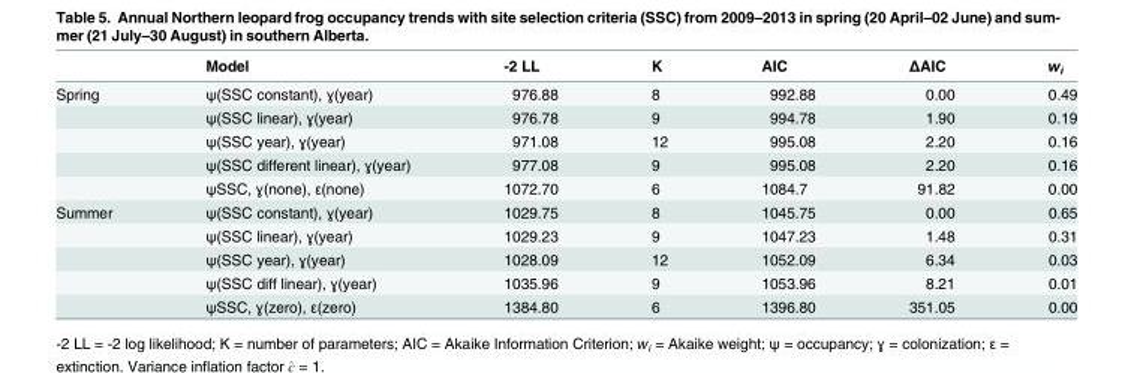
<table><thead><tr><td></td><td>Model</td><td>-2 LL</td><td>K</td><td>AIC</td><td>ΔAIC</td><td>w<sub>i</sub></td></tr></thead><tbody><tr><td rowspan="5">Spring</td><td>ψ(SSC constant), ɣ(year)</td><td>976.88</td><td>8</td><td>992.88</td><td>0.00</td><td>0.49</td></tr><tr><td>ψ(SSC linear), ɣ(year)</td><td>976.78</td><td>9</td><td>994.78</td><td>1.90</td><td>0.19</td></tr><tr><td>ψ(SSC year), ɣ(year)</td><td>971.08</td><td>12</td><td>995.08</td><td>2.20</td><td>0.16</td></tr><tr><td>ψ(SSC different linear), ɣ(year)</td><td>977.08</td><td>9</td><td>995.08</td><td>2.20</td><td>0.16</td></tr><tr><td>ψSSC, ɣ(none), ε(none)</td><td>1072.70</td><td>6</td><td>1084.7</td><td>91.82</td><td>0.00</td></tr><tr><td rowspan="5">Summer</td><td>ψ(SSC constant), ɣ(year)</td><td>1029.75</td><td>8</td><td>1045.75</td><td>0.00</td><td>0.65</td></tr><tr><td>ψ(SSC linear), ɣ(year)</td><td>1029.23</td><td>9</td><td>1047.23</td><td>1.48</td><td>0.31</td></tr><tr><td>ψ(SSC year), ɣ(year)</td><td>1028.09</td><td>12</td><td>1052.09</td><td>6.34</td><td>0.03</td></tr><tr><td>ψ(SSC diff linear), ɣ(year)</td><td>1035.96</td><td>9</td><td>1053.96</td><td>8.21</td><td>0.01</td></tr><tr><td>ψSSC, ɣ(zero), ε(zero)</td><td>1384.80</td><td>6</td><td>1396.80</td><td>351.05</td><td>0.00</td></tr></tbody></table>